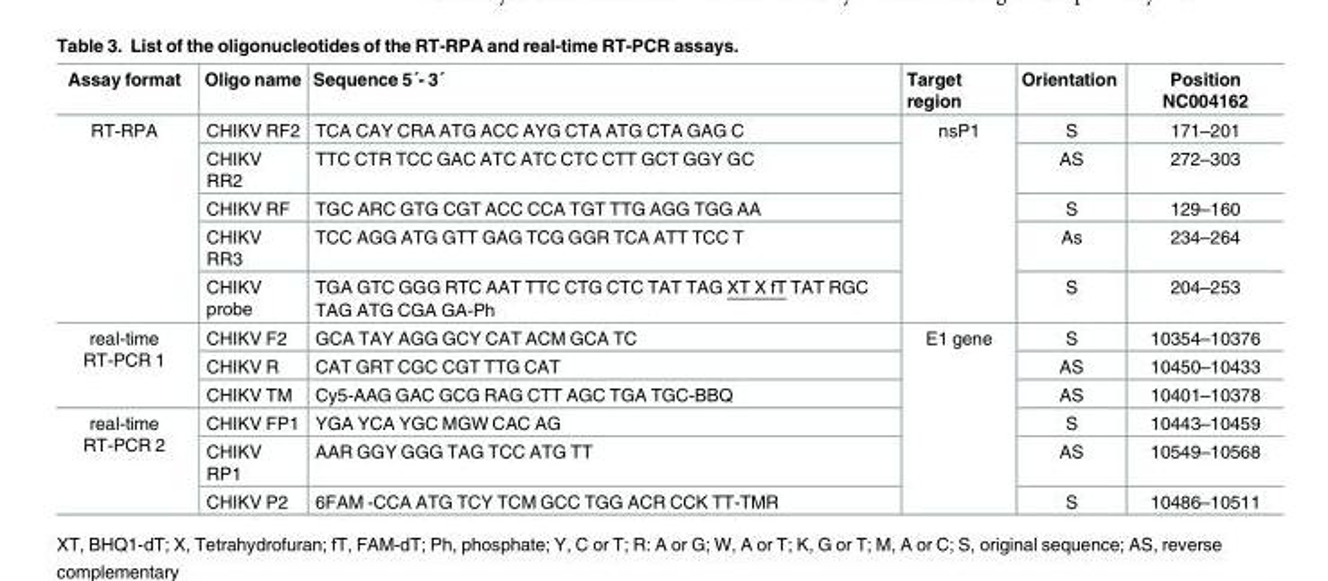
<table><thead><tr><td>Assay format</td><td>Oligo name</td><td>Sequence 5´- 3´</td><td>Target region</td><td>Orientation</td><td>Position NC004162</td></tr></thead><tbody><tr><td rowspan="5">RT-RPA</td><td>CHIKV RF2</td><td>TCA CAY CRA ATG ACC AYG CTA ATG CTA GAG C</td><td rowspan="5">nsP1</td><td>S</td><td>171–201</td></tr><tr><td>CHIKV RR2</td><td>TTC CTR TCC GAC ATC ATC CTC CTT GCT GGY GC</td><td>AS</td><td>272–303</td></tr><tr><td>CHIKV RF</td><td>TGC ARC GTG CGT ACC CCA TGT TTG AGG TGG AA</td><td>S</td><td>129–160</td></tr><tr><td>CHIKV RR3</td><td>TCC AGG ATG GTT GAG TCG GGR TCA ATT TCC T</td><td>As</td><td>234–264</td></tr><tr><td>CHIKV probe</td><td>TGA GTC GGG RTC AAT TTC CTG CTC TAT TAG XT X fT TAT RGC TAG ATG CGA GA-Ph</td><td>S</td><td>204–253</td></tr><tr><td rowspan="3">real-time RT-PCR 1</td><td>CHIKV F2</td><td>GCA TAY AGG GCY CAT ACM GCA TC</td><td rowspan="6">E1 gene</td><td>S</td><td>10354–10376</td></tr><tr><td>CHIKV R</td><td>CAT GRT CGC CGT TTG CAT</td><td>AS</td><td>10450–10433</td></tr><tr><td>CHIKV TM</td><td>Cy5-AAG GAC GCG RAG CTT AGC TGA TGC-BBQ</td><td>AS</td><td>10401–10378</td></tr><tr><td rowspan="3">real-time RT-PCR 2</td><td>CHIKV FP1</td><td>YGA YCA YGC MGW CAC AG</td><td>S</td><td>10443–10459</td></tr><tr><td>CHIKV RP1</td><td>AAR GGY GGG TAG TCC ATG TT</td><td>AS</td><td>10549–10568</td></tr><tr><td>CHIKV P2</td><td>6FAM -CCA ATG TCY TCM GCC TGG ACR CCK TT-TMR</td><td>S</td><td>10486–10511</td></tr></tbody></table>